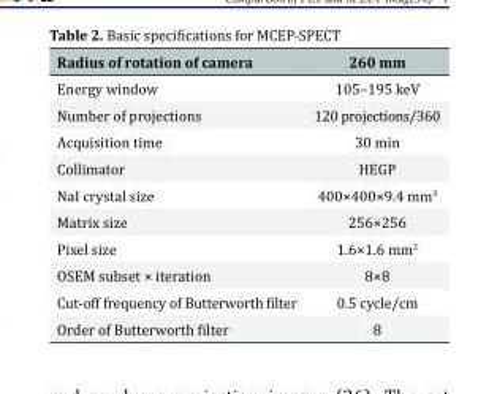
<table><thead><tr><td>Radius of rotation of camera</td><td>260 mm</td></tr></thead><tbody><tr><td>Energy window</td><td>105–195 keV</td></tr><tr><td>Number of projections</td><td>120 projections/360</td></tr><tr><td>Acquisition time</td><td>30 min</td></tr><tr><td>Collimator</td><td>HEGP</td></tr><tr><td>NaI crystal size</td><td>400×400×9.4 mm<sup>3</sup></td></tr><tr><td>Matrix size</td><td>256×256</td></tr><tr><td>Pixel size</td><td>1.6×1.6 mm<sup>2</sup></td></tr><tr><td>OSEM subset × iteration</td><td>8×8</td></tr><tr><td>Cut-off frequency of Butterworth filter</td><td>0.5 cycle/cm</td></tr><tr><td>Order of Butterworth filter</td><td>8</td></tr></tbody></table>